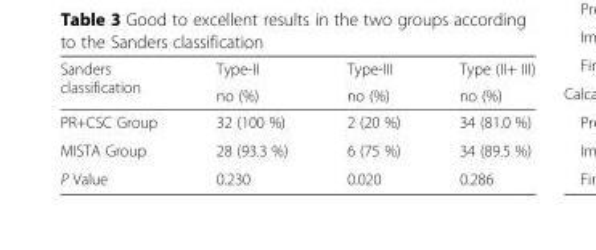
<table><thead><tr><td rowspan="2">Sanders classification</td><td rowspan="2">Type-II no (%)</td><td rowspan="2">Type-III no (%)</td><td rowspan="2">Type (II+ III) no (%)</td></tr><tr></tr></thead><tbody><tr><td>PR+CSC Group</td><td>32 (100 %)</td><td>2 (20 %)</td><td>34 (81.0 %)</td></tr><tr><td>MISTA Group</td><td>28 (93.3 %)</td><td>6 (75 %)</td><td>34 (89.5 %)</td></tr><tr><td>P Value</td><td>0.230</td><td>0.020</td><td>0.286</td></tr></tbody></table>